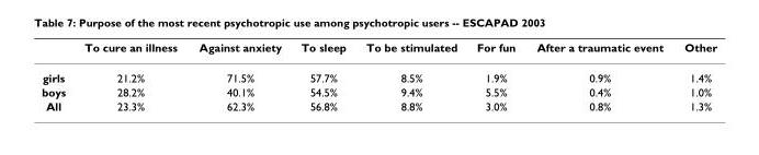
<table><thead><tr><td></td><td>To cure an illness</td><td>Against anxiety</td><td>To sleep</td><td>To be stimulated</td><td>For fun</td><td>After a traumatic event</td><td>Other</td></tr></thead><tbody><tr><td>girls</td><td>21.2%</td><td>71.5%</td><td>57.7%</td><td>8.5%</td><td>1.9%</td><td>0.9%</td><td>1.4%</td></tr><tr><td>boys</td><td>28.2%</td><td>40.1%</td><td>54.5%</td><td>9.4%</td><td>5.5%</td><td>0.4%</td><td>1.0%</td></tr><tr><td>All</td><td>23.3%</td><td>62.3%</td><td>56.8%</td><td>8.8%</td><td>3.0%</td><td>0.8%</td><td>1.3%</td></tr></tbody></table>